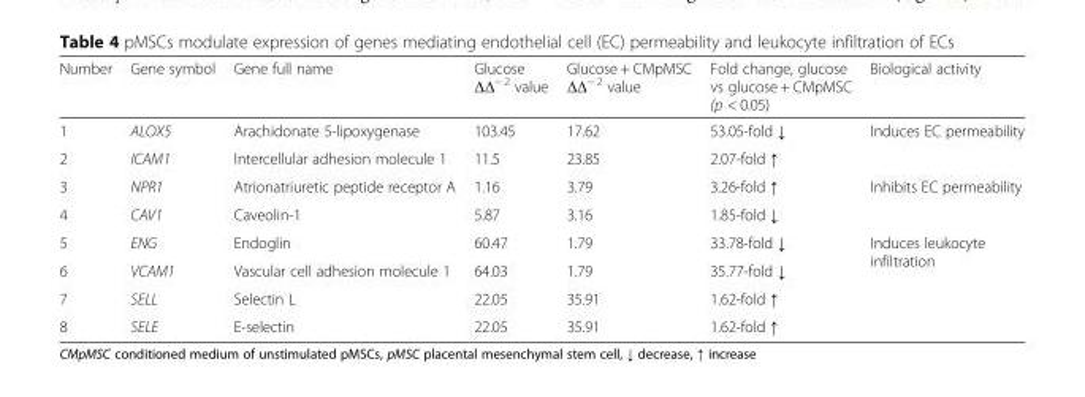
<table><thead><tr><td>Number</td><td>Gene symbol</td><td>Gene full name</td><td>Glucose ΔΔ<sup>− 2</sup> value</td><td>Glucose + CMpMSC ΔΔ<sup>− 2</sup> value</td><td>Fold change, glucose vs glucose + CMpMSC (p &lt; 0.05)</td><td>Biological activity</td></tr></thead><tbody><tr><td>1</td><td>ALOX5</td><td>Arachidonate 5-lipoxygenase</td><td>103.45</td><td>17.62</td><td>53.05-fold ↓</td><td rowspan="2">Induces EC permeability</td></tr><tr><td>2</td><td>ICAM1</td><td>Intercellular adhesion molecule 1</td><td>11.5</td><td>23.85</td><td>2.07-fold ↑</td></tr><tr><td>3</td><td>NPR1</td><td>Atrionatriuretic peptide receptor A</td><td>1.16</td><td>3.79</td><td>3.26-fold ↑</td><td rowspan="2">Inhibits EC permeability</td></tr><tr><td>4</td><td>CAV1</td><td>Caveolin-1</td><td>5.87</td><td>3.16</td><td>1.85-fold ↓</td></tr><tr><td>5</td><td>ENG</td><td>Endoglin</td><td>60.47</td><td>1.79</td><td>33.78-fold ↓</td><td rowspan="4">Induces leukocyte infiltration</td></tr><tr><td>6</td><td>VCAM1</td><td>Vascular cell adhesion molecule 1</td><td>64.03</td><td>1.79</td><td>35.77-fold ↓</td></tr><tr><td>7</td><td>SELL</td><td>Selectin L</td><td>22.05</td><td>35.91</td><td>1.62-fold ↑</td></tr><tr><td>8</td><td>SELE</td><td>E-selectin</td><td>22.05</td><td>35.91</td><td>1.62-fold ↑</td></tr></tbody></table>